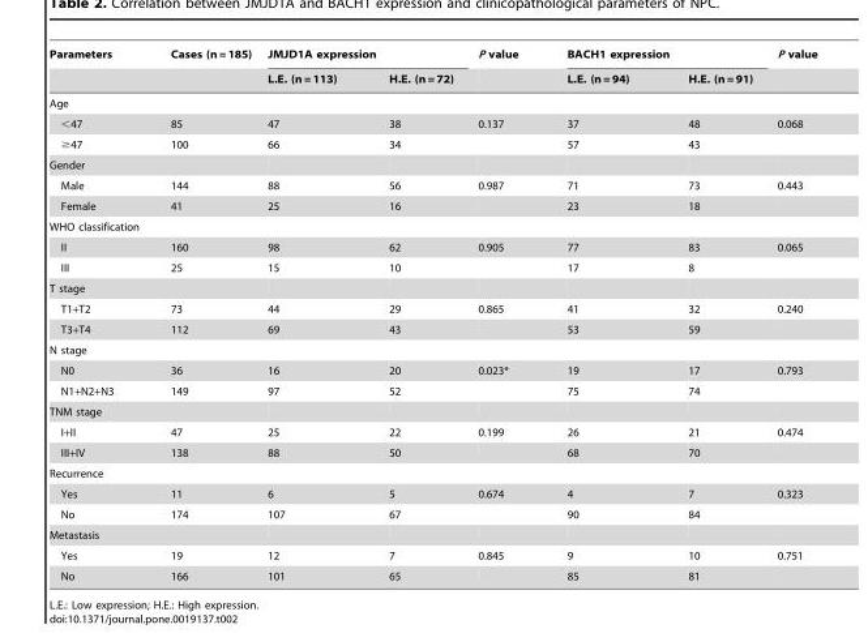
<table><thead><tr><td rowspan="2">Parameters</td><td rowspan="2">Cases (n = 185)</td><td colspan="2">JMJD1A expression</td><td rowspan="2">P value</td><td colspan="2">BACH1 expression</td><td rowspan="2">P value</td></tr><tr><td>L.E. (n = 113)</td><td>H.E. (n = 72)</td><td>L.E. (n = 94)</td><td>H.E. (n = 91)</td></tr></thead><tbody><tr><td colspan="8">Age</td></tr><tr><td>&lt;47</td><td>85</td><td>47</td><td>38</td><td>0.137</td><td>37</td><td>48</td><td>0.068</td></tr><tr><td>≥47</td><td>100</td><td>66</td><td>34</td><td></td><td>57</td><td>43</td><td></td></tr><tr><td colspan="8">Gender</td></tr><tr><td>Male</td><td>144</td><td>88</td><td>56</td><td>0.987</td><td>71</td><td>73</td><td>0.443</td></tr><tr><td>Female</td><td>41</td><td>25</td><td>16</td><td></td><td>23</td><td>18</td><td></td></tr><tr><td colspan="8">WHO classification</td></tr><tr><td>II</td><td>160</td><td>98</td><td>62</td><td>0.905</td><td>77</td><td>83</td><td>0.065</td></tr><tr><td>III</td><td>25</td><td>15</td><td>10</td><td></td><td>17</td><td>8</td><td></td></tr><tr><td colspan="8">T stage</td></tr><tr><td>T1+T2</td><td>73</td><td>44</td><td>29</td><td>0.865</td><td>41</td><td>32</td><td>0.240</td></tr><tr><td>T3+T4</td><td>112</td><td>69</td><td>43</td><td></td><td>53</td><td>59</td><td></td></tr><tr><td colspan="8">N stage</td></tr><tr><td>N0</td><td>36</td><td>16</td><td>20</td><td>0.023*</td><td>19</td><td>17</td><td>0.793</td></tr><tr><td>N1+N2+N3</td><td>149</td><td>97</td><td>52</td><td></td><td>75</td><td>74</td><td></td></tr><tr><td colspan="8">TNM stage</td></tr><tr><td>I+II</td><td>47</td><td>25</td><td>22</td><td>0.199</td><td>26</td><td>21</td><td>0.474</td></tr><tr><td>III+IV</td><td>138</td><td>88</td><td>50</td><td></td><td>68</td><td>70</td><td></td></tr><tr><td colspan="8">Recurrence</td></tr><tr><td>Yes</td><td>11</td><td>6</td><td>5</td><td>0.674</td><td>4</td><td>7</td><td>0.323</td></tr><tr><td>No</td><td>174</td><td>107</td><td>67</td><td></td><td>90</td><td>84</td><td></td></tr><tr><td colspan="8">Metastasis</td></tr><tr><td>Yes</td><td>19</td><td>12</td><td>7</td><td>0.845</td><td>9</td><td>10</td><td>0.751</td></tr><tr><td>No</td><td>166</td><td>101</td><td>65</td><td></td><td>85</td><td>81</td><td></td></tr></tbody></table>